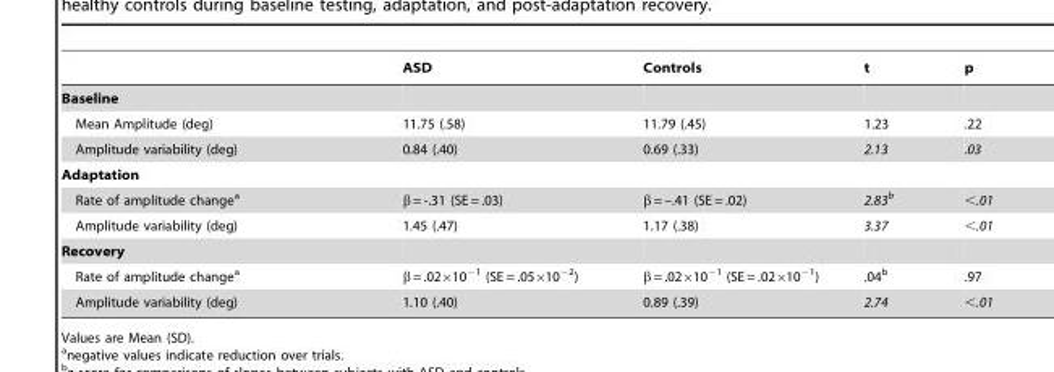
<table><thead><tr><td></td><td>ASD</td><td>Controls</td><td>t</td><td>p</td></tr></thead><tbody><tr><td colspan="5">Baseline</td></tr><tr><td>Mean Amplitude (deg)</td><td>11.75 (.58)</td><td>11.79 (.45)</td><td>1.23</td><td>.22</td></tr><tr><td>Amplitude variability (deg)</td><td>0.84 (.40)</td><td>0.69 (.33)</td><td>2.13</td><td>.03</td></tr><tr><td colspan="5">Adaptation</td></tr><tr><td>Rate of amplitude change<sup>a</sup></td><td>β = -.31 (SE = .03)</td><td>β = –.41 (SE = .02)</td><td>2.83b</td><td>&lt;.01</td></tr><tr><td>Amplitude variability (deg)</td><td>1.45 (.47)</td><td>1.17 (.38)</td><td>3.37</td><td>&lt;.01</td></tr><tr><td colspan="5">Recovery</td></tr><tr><td>Rate of amplitude change<sup>a</sup></td><td>β = .02×10<sup>−1</sup> (SE = .05×10<sup>−2</sup>)</td><td>β = .02×10<sup>−1</sup> (SE = .02×10<sup>−1</sup>)</td><td>.04<sup>b</sup></td><td>.97</td></tr><tr><td>Amplitude variability (deg)</td><td>1.10 (.40)</td><td>0.89 (.39)</td><td>2.74</td><td>&lt;.01</td></tr></tbody></table>